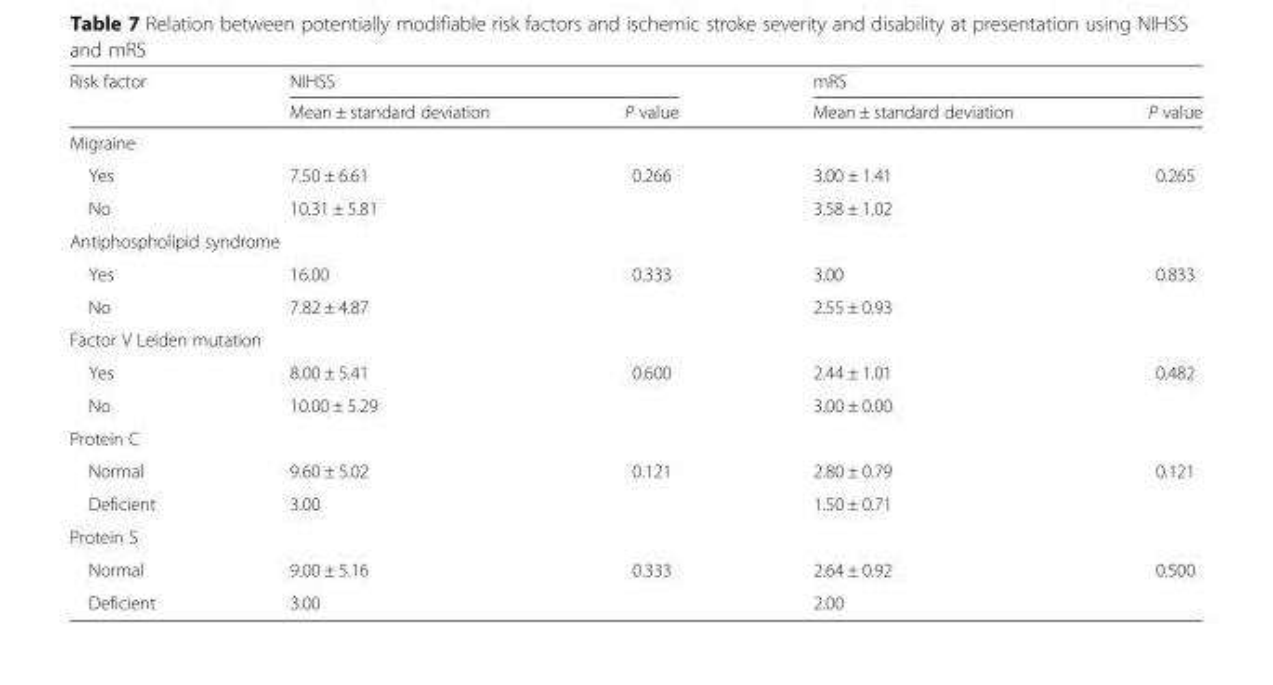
<table><thead><tr><td rowspan="2">Risk factor</td><td colspan="2">NIHSS</td><td colspan="2">mRS</td></tr><tr><td>Mean ± standard deviation</td><td>P value</td><td>Mean ± standard deviation</td><td>P value</td></tr></thead><tbody><tr><td colspan="5">Migraine</td></tr><tr><td>Yes</td><td>7.50 ± 6.61</td><td>0.266</td><td>3.00 ± 1.41</td><td rowspan="2">0.265</td></tr><tr><td>No</td><td>10.31 ± 5.81</td><td></td><td>3.58 ± 1.02</td></tr><tr><td colspan="5">Antiphospholipid syndrome</td></tr><tr><td>Yes</td><td>16.00</td><td>0.333</td><td>3.00</td><td rowspan="2">0.833</td></tr><tr><td>No</td><td>7.82 ± 4.87</td><td></td><td>2.55 ± 0.93</td></tr><tr><td colspan="5">Factor V Leiden mutation</td></tr><tr><td>Yes</td><td>8.00 ± 5.41</td><td>0.600</td><td>2.44 ± 1.01</td><td rowspan="2">0.482</td></tr><tr><td>No</td><td>10.00 ± 5.29</td><td></td><td>3.00 ± 0.00</td></tr><tr><td colspan="5">Protein C</td></tr><tr><td>Normal</td><td>9.60 ± 5.02</td><td>0.121</td><td>2.80 ± 0.79</td><td rowspan="2">0.121</td></tr><tr><td>Deficient</td><td>3.00</td><td></td><td>1.50 ± 0.71</td></tr><tr><td colspan="5">Protein S</td></tr><tr><td>Normal</td><td>9.00 ± 5.16</td><td>0.333</td><td>2.64 ± 0.92</td><td rowspan="2">0.500</td></tr><tr><td>Deficient</td><td>3.00</td><td></td><td>2.00</td></tr></tbody></table>